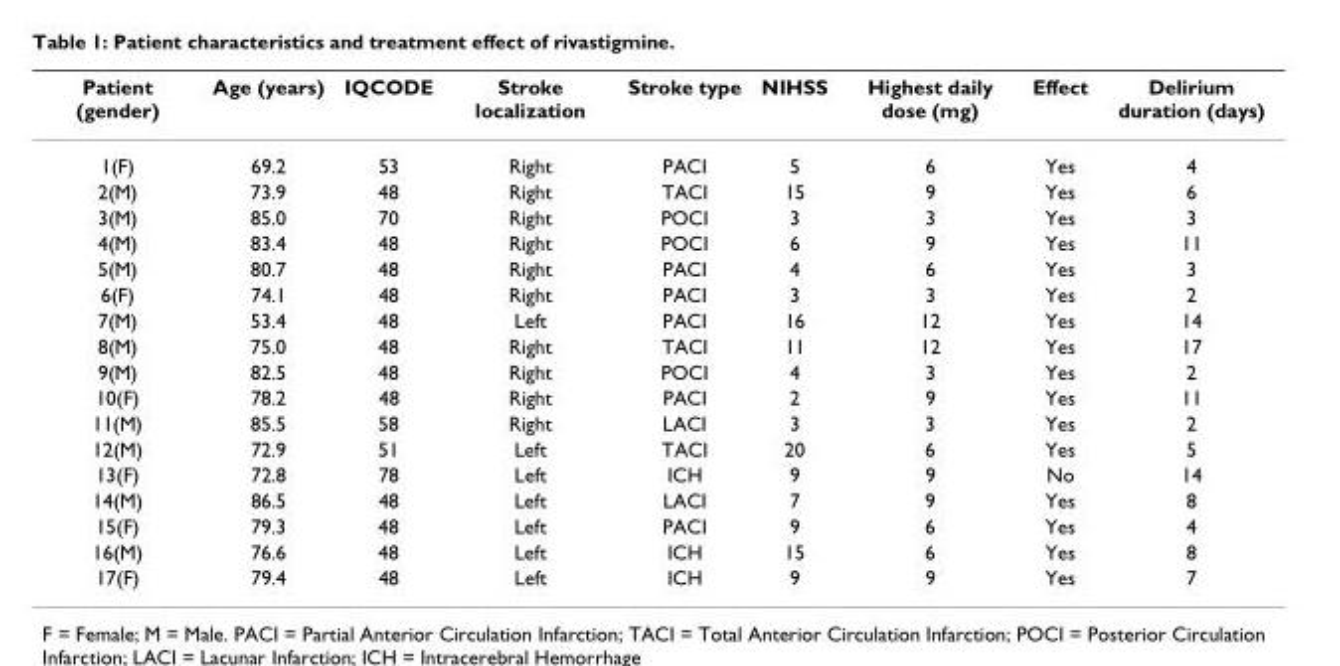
<table><thead><tr><td>Patient (gender)</td><td>Age (years)</td><td>IQCODE</td><td>Stroke localization</td><td>Stroke type</td><td>NIHSS</td><td>Highest daily dose (mg)</td><td>Effect</td><td>Delirium duration (days)</td></tr></thead><tbody><tr><td>1(F)</td><td>69.2</td><td>53</td><td>Right</td><td>PACI</td><td>5</td><td>6</td><td>Yes</td><td>4</td></tr><tr><td>2(M)</td><td>73.9</td><td>48</td><td>Right</td><td>TACI</td><td>15</td><td>9</td><td>Yes</td><td>6</td></tr><tr><td>3(M)</td><td>85.0</td><td>70</td><td>Right</td><td>POCI</td><td>3</td><td>3</td><td>Yes</td><td>3</td></tr><tr><td>4(M)</td><td>83.4</td><td>48</td><td>Right</td><td>POCI</td><td>6</td><td>9</td><td>Yes</td><td>11</td></tr><tr><td>5(M)</td><td>80.7</td><td>48</td><td>Right</td><td>PACI</td><td>4</td><td>6</td><td>Yes</td><td>3</td></tr><tr><td>6(F)</td><td>74.1</td><td>48</td><td>Right</td><td>PACI</td><td>3</td><td>3</td><td>Yes</td><td>2</td></tr><tr><td>7(M)</td><td>53.4</td><td>48</td><td>Left</td><td>PACI</td><td>16</td><td>12</td><td>Yes</td><td>14</td></tr><tr><td>8(M)</td><td>75.0</td><td>48</td><td>Right</td><td>TACI</td><td>11</td><td>12</td><td>Yes</td><td>17</td></tr><tr><td>9(M)</td><td>82.5</td><td>48</td><td>Right</td><td>POCI</td><td>4</td><td>3</td><td>Yes</td><td>2</td></tr><tr><td>10(F)</td><td>78.2</td><td>48</td><td>Right</td><td>PACI</td><td>2</td><td>9</td><td>Yes</td><td>11</td></tr><tr><td>11(M)</td><td>85.5</td><td>58</td><td>Right</td><td>LACI</td><td>3</td><td>3</td><td>Yes</td><td>2</td></tr><tr><td>12(M)</td><td>72.9</td><td>51</td><td>Left</td><td>TACI</td><td>20</td><td>6</td><td>Yes</td><td>5</td></tr><tr><td>13(F)</td><td>72.8</td><td>78</td><td>Left</td><td>ICH</td><td>9</td><td>9</td><td>No</td><td>14</td></tr><tr><td>14(M)</td><td>86.5</td><td>48</td><td>Left</td><td>LACI</td><td>7</td><td>9</td><td>Yes</td><td>8</td></tr><tr><td>15(F)</td><td>79.3</td><td>48</td><td>Left</td><td>PACI</td><td>9</td><td>6</td><td>Yes</td><td>4</td></tr><tr><td>16(M)</td><td>76.6</td><td>48</td><td>Left</td><td>ICH</td><td>15</td><td>6</td><td>Yes</td><td>8</td></tr><tr><td>17(F)</td><td>79.4</td><td>48</td><td>Left</td><td>ICH</td><td>9</td><td>9</td><td>Yes</td><td>7</td></tr></tbody></table>